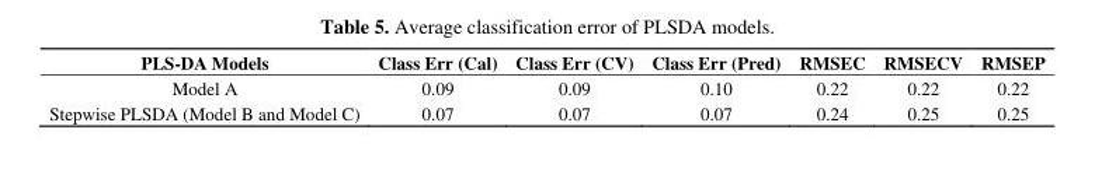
<table><thead><tr><td>PLS-DA Models</td><td>Class Err (Cal)</td><td>Class Err (CV)</td><td>Class Err (Pred)</td><td>RMSEC</td><td>RMSECV</td><td>RMSEP</td></tr></thead><tbody><tr><td>Model A</td><td>0.09</td><td>0.09</td><td>0.10</td><td>0.22</td><td>0.22</td><td>0.22</td></tr><tr><td>Stepwise PLSDA (Model B and Model C)</td><td>0.07</td><td>0.07</td><td>0.07</td><td>0.24</td><td>0.25</td><td>0.25</td></tr></tbody></table>